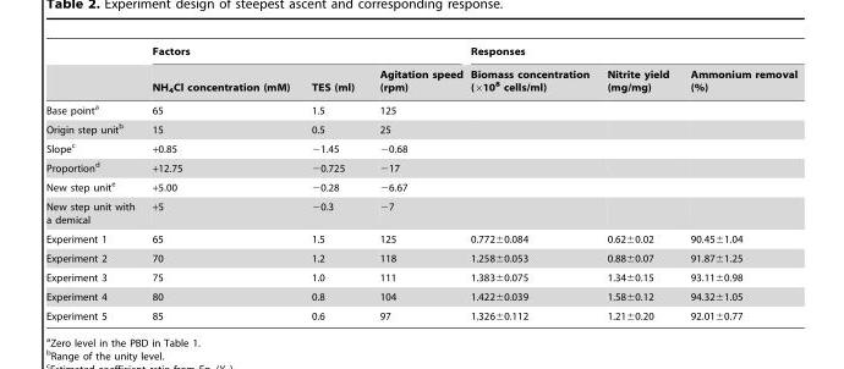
<table><thead><tr><td rowspan="2"></td><td colspan="3">Factors</td><td colspan="3">Responses</td></tr><tr><td>NH<sub>4</sub>Cl concentration (mM)</td><td>TES (ml)</td><td>Agitation speed (rpm)</td><td>Biomass concentration (×10<sup>8</sup> cells/ml)</td><td>Nitrite yield (mg/mg)</td><td>Ammonium removal (%)</td></tr></thead><tbody><tr><td>Base point<sup>a</sup></td><td>65</td><td>1.5</td><td>125</td><td></td><td></td><td></td></tr><tr><td>Origin step unit<sup>b</sup></td><td>15</td><td>0.5</td><td>25</td><td></td><td></td><td></td></tr><tr><td>Slope<sup>c</sup></td><td>+0.85</td><td>−1.45</td><td>−0.68</td><td></td><td></td><td></td></tr><tr><td>Proportion<sup>d</sup></td><td>+12.75</td><td>−0.725</td><td>−17</td><td></td><td></td><td></td></tr><tr><td>New step unit<sup>e</sup></td><td>+5.00</td><td>−0.28</td><td>−6.67</td><td></td><td></td><td></td></tr><tr><td>New step unit with a demical</td><td>+5</td><td>−0.3</td><td>−7</td><td></td><td></td><td></td></tr><tr><td>Experiment 1</td><td>65</td><td>1.5</td><td>125</td><td>0.772±0.084</td><td>0.62±0.02</td><td>90.45±1.04</td></tr><tr><td>Experiment 2</td><td>70</td><td>1.2</td><td>118</td><td>1.258±0.053</td><td>0.88±0.07</td><td>91.87±1.25</td></tr><tr><td>Experiment 3</td><td>75</td><td>1.0</td><td>111</td><td>1.383±0.075</td><td>1.34±0.15</td><td>93.11±0.98</td></tr><tr><td>Experiment 4</td><td>80</td><td>0.8</td><td>104</td><td>1.422±0.039</td><td>1.58±0.12</td><td>94.32±1.05</td></tr><tr><td>Experiment 5</td><td>85</td><td>0.6</td><td>97</td><td>1.326±0.112</td><td>1.21±0.20</td><td>92.01±0.77</td></tr></tbody></table>